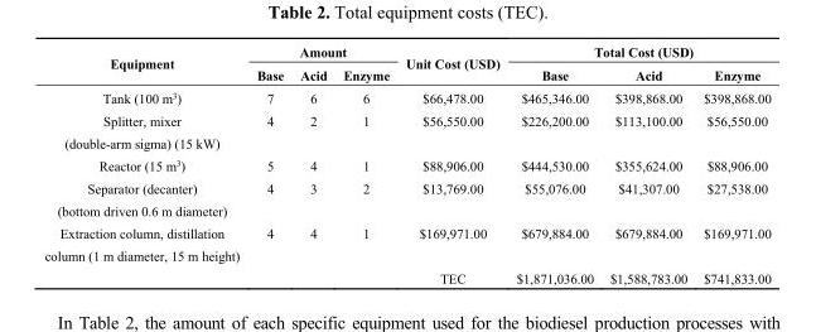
<table><thead><tr><td rowspan="2">Equipment</td><td colspan="3">Amount</td><td rowspan="2">Unit Cost (USD)</td><td colspan="3">Total Cost (USD)</td></tr><tr><td>Base</td><td>Acid</td><td>Enzyme</td><td>Base</td><td>Acid</td><td>Enzyme</td></tr></thead><tbody><tr><td>Tank (100 m<sup>3</sup>)</td><td>7</td><td>6</td><td>6</td><td>$66,478.00</td><td>$465,346.00</td><td>$398,868.00</td><td>$398,868.00</td></tr><tr><td>Splitter, mixer (double-arm sigma) (15 kW)</td><td>4</td><td>2</td><td>1</td><td>$56,550.00</td><td>$226,200.00</td><td>$113,100.00</td><td>$56,550.00</td></tr><tr><td>Reactor (15 m<sup>3</sup>)</td><td>5</td><td>4</td><td>1</td><td>$88,906.00</td><td>$444,530.00</td><td>$355,624.00</td><td>$88,906.00</td></tr><tr><td>Separator (decanter) (bottom driven 0.6 m diameter)</td><td>4</td><td>3</td><td>2</td><td>$13,769.00</td><td>$55,076.00</td><td>$41,307.00</td><td>$27,538.00</td></tr><tr><td rowspan="2">Extraction column, distillation column (1 m diameter, 15 m height)</td><td>4</td><td>4</td><td>1</td><td>$169,971.00</td><td>$679,884.00</td><td>$679,884.00</td><td>$169,971.00</td></tr><tr><td></td><td></td><td></td><td>TEC</td><td>$1,871,036.00</td><td>$1,588,783.00</td><td>$741,833.00</td></tr></tbody></table>